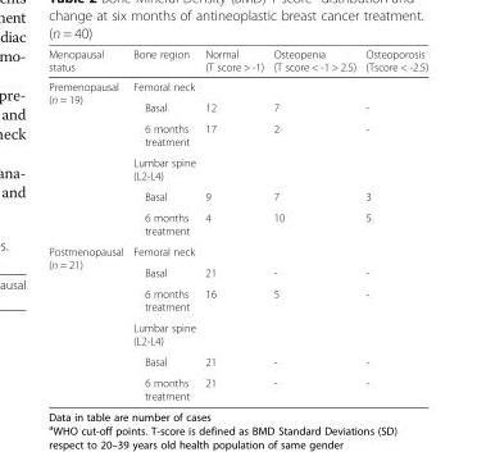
<table><thead><tr><td>Menopausal status</td><td>Bone region</td><td>Normal (T score &gt; -1)</td><td>Osteopenia (T score &lt; -1 &gt; 2.5)</td><td>Osteoporosis (Tscore &lt; -2.5)</td></tr></thead><tbody><tr><td rowspan="6">Premenopausal (n = 19)</td><td>Femoral neck</td><td></td><td></td><td></td></tr><tr><td>Basal</td><td>12</td><td>7</td><td>-</td></tr><tr><td>6 months treatment</td><td>17</td><td>2</td><td>-</td></tr><tr><td>Lumbar spine (L2-L4)</td><td></td><td></td><td></td></tr><tr><td>Basal</td><td>9</td><td>7</td><td>3</td></tr><tr><td>6 months treatment</td><td>4</td><td>10</td><td>5</td></tr><tr><td rowspan="6">Postmenopausal (n = 21)</td><td>Femoral neck</td><td></td><td></td><td></td></tr><tr><td>Basal</td><td>21</td><td>-</td><td>-</td></tr><tr><td>6 months treatment</td><td>16</td><td>5</td><td>-</td></tr><tr><td>Lumbar spine (L2-L4)</td><td></td><td></td><td></td></tr><tr><td>Basal</td><td>21</td><td>-</td><td>-</td></tr><tr><td>6 months treatment</td><td>21</td><td>-</td><td>-</td></tr></tbody></table>